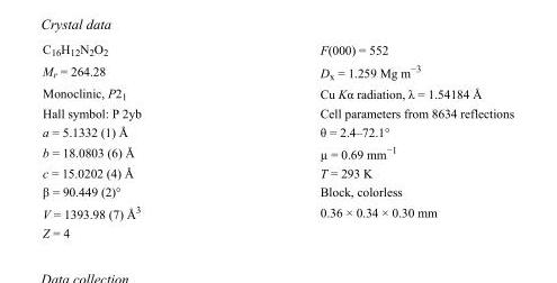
<table><tbody><tr><td>C<sub>16</sub>H<sub>12</sub>N<sub>2</sub>O<sub>2</sub></td><td>F(000) = 552</td></tr><tr><td>M<sub>r</sub> = 264.28</td><td>D<sub>x</sub> = 1.259 Mg m<sup>−3</sup></td></tr><tr><td>Monoclinic, P2<sub>1</sub></td><td>Cu Kα radiation, λ = 1.54184 Å</td></tr><tr><td>Hall symbol: P 2yb</td><td>Cell parameters from 8634 reflections</td></tr><tr><td>a = 5.1332 (1) Å</td><td>θ = 2.4–72.1°</td></tr><tr><td>b = 18.0803 (6) Å</td><td>µ = 0.69 mm<sup>−1</sup></td></tr><tr><td>c = 15.0202 (4) Å</td><td>T = 293 K</td></tr><tr><td>β = 90.449 (2)°</td><td>Block, colorless</td></tr><tr><td>V = 1393.98 (7) Å<sup>3</sup></td><td>0.36 × 0.34 × 0.30 mm</td></tr><tr><td>Z = 4</td><td></td></tr></tbody></table>